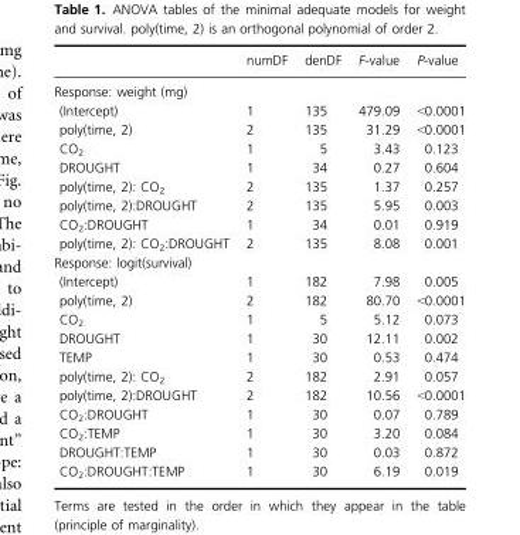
<table><thead><tr><td></td><td>numDF</td><td>denDF</td><td>F-value</td><td>P-value</td></tr></thead><tbody><tr><td colspan="5">Response: weight (mg)</td></tr><tr><td>(Intercept)</td><td>1</td><td>135</td><td>479.09</td><td>&lt;0.0001</td></tr><tr><td>poly(time, 2)</td><td>2</td><td>135</td><td>31.29</td><td>&lt;0.0001</td></tr><tr><td>CO<sub>2</sub></td><td>1</td><td>5</td><td>3.43</td><td>0.123</td></tr><tr><td>DROUGHT</td><td>1</td><td>34</td><td>0.27</td><td>0.604</td></tr><tr><td>poly(time, 2): CO<sub>2</sub></td><td>2</td><td>135</td><td>1.37</td><td>0.257</td></tr><tr><td>poly(time, 2):DROUGHT</td><td>2</td><td>135</td><td>5.95</td><td>0.003</td></tr><tr><td>CO<sub>2</sub>:DROUGHT</td><td>1</td><td>34</td><td>0.01</td><td>0.919</td></tr><tr><td>poly(time, 2): CO<sub>2</sub>:DROUGHT</td><td>2</td><td>135</td><td>8.08</td><td>0.001</td></tr><tr><td colspan="5">Response: logit(survival)</td></tr><tr><td>(Intercept)</td><td>1</td><td>182</td><td>7.98</td><td>0.005</td></tr><tr><td>poly(time, 2)</td><td>2</td><td>182</td><td>80.70</td><td>&lt;0.0001</td></tr><tr><td>CO<sub>2</sub></td><td>1</td><td>5</td><td>5.12</td><td>0.073</td></tr><tr><td>DROUGHT</td><td>1</td><td>30</td><td>12.11</td><td>0.002</td></tr><tr><td>TEMP</td><td>1</td><td>30</td><td>0.53</td><td>0.474</td></tr><tr><td>poly(time, 2): CO<sub>2</sub></td><td>2</td><td>182</td><td>2.91</td><td>0.057</td></tr><tr><td>poly(time, 2):DROUGHT</td><td>2</td><td>182</td><td>10.56</td><td>&lt;0.0001</td></tr><tr><td>CO<sub>2</sub>:DROUGHT</td><td>1</td><td>30</td><td>0.07</td><td>0.789</td></tr><tr><td>CO<sub>2</sub>:TEMP</td><td>1</td><td>30</td><td>3.20</td><td>0.084</td></tr><tr><td>DROUGHT:TEMP</td><td>1</td><td>30</td><td>0.03</td><td>0.872</td></tr><tr><td>CO<sub>2</sub>:DROUGHT:TEMP</td><td>1</td><td>30</td><td>6.19</td><td>0.019</td></tr></tbody></table>